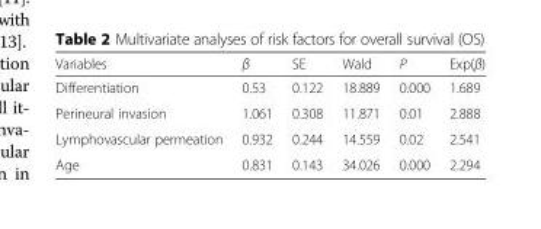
<table><thead><tr><td>Variables</td><td>β</td><td>SE</td><td>Wald</td><td>P</td><td>Exp(β)</td></tr></thead><tbody><tr><td>Differentiation</td><td>0.53</td><td>0.122</td><td>18.889</td><td>0.000</td><td>1.689</td></tr><tr><td>Perineural invasion</td><td>1.061</td><td>0.308</td><td>11.871</td><td>0.01</td><td>2.888</td></tr><tr><td>Lymphovascular permeation</td><td>0.932</td><td>0.244</td><td>14.559</td><td>0.02</td><td>2.541</td></tr><tr><td>Age</td><td>0.831</td><td>0.143</td><td>34.026</td><td>0.000</td><td>2.294</td></tr></tbody></table>